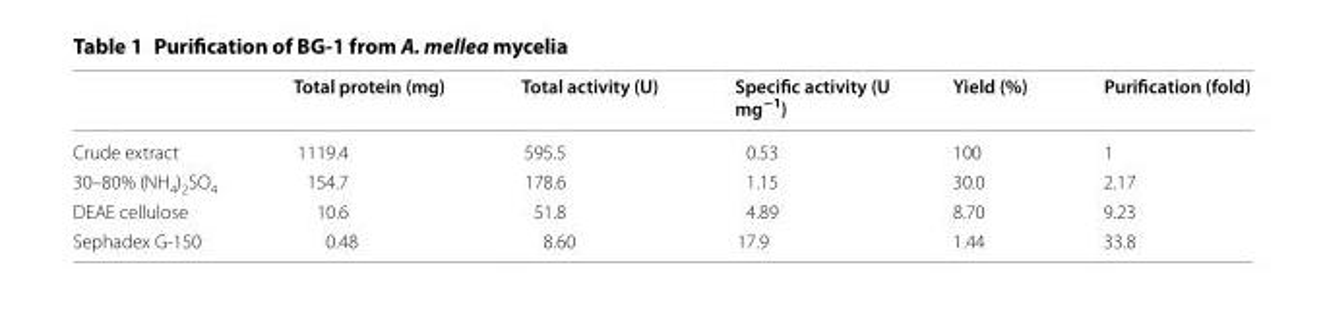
<table><thead><tr><td></td><td>Total protein (mg)</td><td>Total activity (U)</td><td>Specific activity (U mg<sup>−1</sup>)</td><td>Yield (%)</td><td>Purification (fold)</td></tr></thead><tbody><tr><td>Crude extract</td><td>1119.4</td><td>595.5</td><td>0.53</td><td>100</td><td>1</td></tr><tr><td>30–80% (NH<sub>4</sub>)<sub>2</sub>SO<sub>4</sub></td><td>154.7</td><td>178.6</td><td>1.15</td><td>30.0</td><td>2.17</td></tr><tr><td>DEAE cellulose</td><td>10.6</td><td>51.8</td><td>4.89</td><td>8.70</td><td>9.23</td></tr><tr><td>Sephadex G‑150</td><td>0.48</td><td>8.60</td><td>17.9</td><td>1.44</td><td>33.8</td></tr></tbody></table>